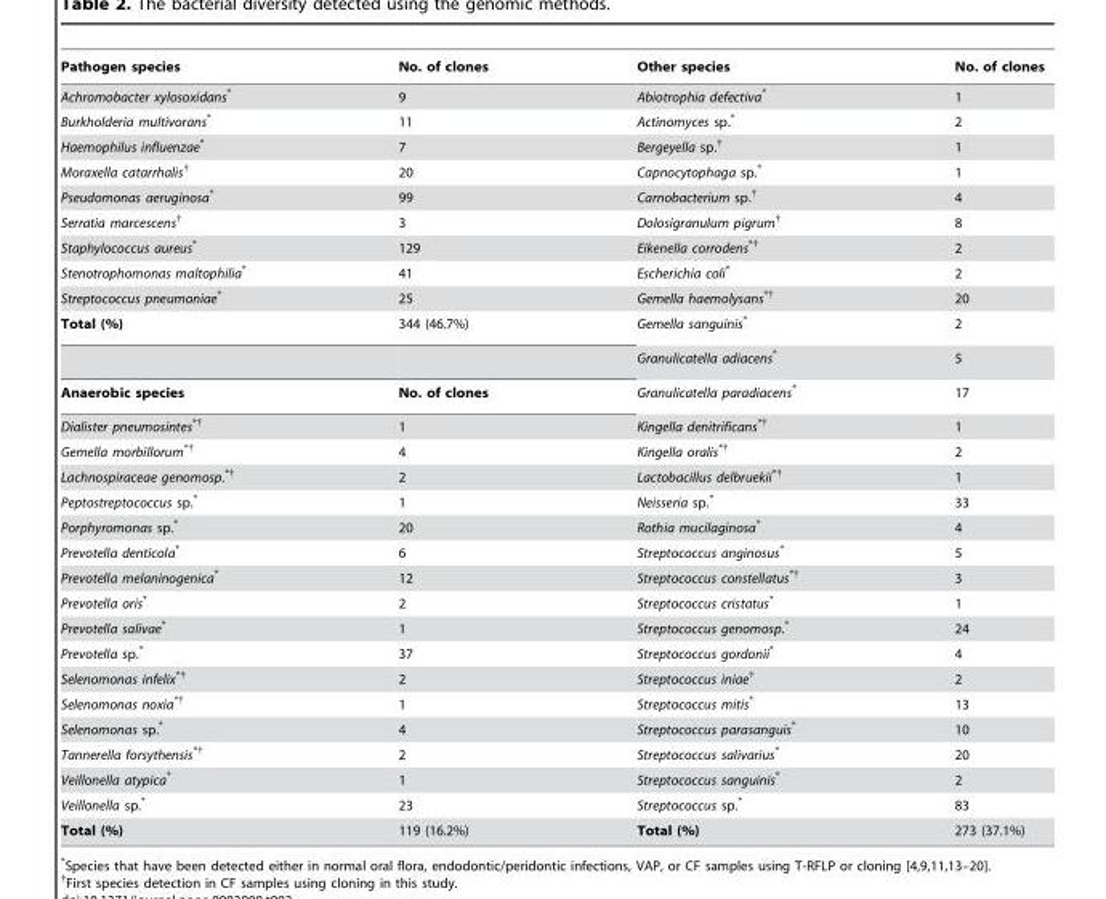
<table><thead><tr><td>Pathogen species</td><td>No. of clones</td><td>Other species</td><td>No. of clones</td></tr></thead><tbody><tr><td>Achromobacter xylosoxidans*</td><td>9</td><td>Abiotrophia defectiva*</td><td>1</td></tr><tr><td>Burkholderia multivorans*</td><td>11</td><td>Actinomyces sp.*</td><td>2</td></tr><tr><td>Haemophilus influenzae*</td><td>7</td><td>Bergeyella sp.†</td><td>1</td></tr><tr><td>Moraxella catarrhalis†</td><td>20</td><td>Capnocytophaga sp.*</td><td>1</td></tr><tr><td>Pseudomonas aeruginosa*</td><td>99</td><td>Carnobacterium sp.†</td><td>4</td></tr><tr><td>Serratia marcescens†</td><td>3</td><td>Dolosigranulum pigrum†</td><td>8</td></tr><tr><td>Staphylococcus aureus*</td><td>129</td><td>Eikenella corrodens*†</td><td>2</td></tr><tr><td>Stenotrophomonas maltophilia*</td><td>41</td><td>Escherichia coli*</td><td>2</td></tr><tr><td>Streptococcus pneumoniae*</td><td>25</td><td>Gemella haemolysans*†</td><td>20</td></tr><tr><td rowspan="2">Total (%)</td><td>344 (46.7%)</td><td>Gemella sanguinis*</td><td>2</td></tr><tr><td></td><td>Granulicatella adiacens*</td><td>5</td></tr><tr><td>Anaerobic species</td><td>No. of clones</td><td>Granulicatella paradiacens*</td><td>17</td></tr><tr><td>Dialister pneumosintes*†</td><td>1</td><td>Kingella denitrificans*†</td><td>1</td></tr><tr><td>Gemella morbillorum*†</td><td>4</td><td>Kingella oralis*†</td><td>2</td></tr><tr><td>Lachnospiraceae genomosp.*†</td><td>2</td><td>Lactobacillus delbruekii*†</td><td>1</td></tr><tr><td>Peptostreptococcus sp.*</td><td>1</td><td>Neisseria sp.*</td><td>33</td></tr><tr><td>Porphyromonas sp.*</td><td>20</td><td>Rothia mucilaginosa*</td><td>4</td></tr><tr><td>Prevotella denticola*</td><td>6</td><td>Streptococcus anginosus*</td><td>5</td></tr><tr><td>Prevotella melaninogenica*</td><td>12</td><td>Streptococcus constellatus*†</td><td>3</td></tr><tr><td>Prevotella oris*</td><td>2</td><td>Streptococcus cristatus*</td><td>1</td></tr><tr><td>Prevotella salivae*</td><td>1</td><td>Streptococcus genomosp.*</td><td>24</td></tr><tr><td>Prevotella sp.*</td><td>37</td><td>Streptococcus gordonii*</td><td>4</td></tr><tr><td>Selenomonas infelix*†</td><td>2</td><td>Streptococcus iniae†</td><td>2</td></tr><tr><td>Selenomonas noxia*†</td><td>1</td><td>Streptococcus mitis*</td><td>13</td></tr><tr><td>Selenomonas sp.*</td><td>4</td><td>Streptococcus parasanguis*</td><td>10</td></tr><tr><td>Tannerella forsythensis*†</td><td>2</td><td>Streptococcus salivarius*</td><td>20</td></tr><tr><td>Veillonella atypica*</td><td>1</td><td>Streptococcus sanguinis*</td><td>2</td></tr><tr><td>Veillonella sp.*</td><td>23</td><td>Streptococcus sp.*</td><td>83</td></tr><tr><td>Total (%)</td><td>119 (16.2%)</td><td>Total (%)</td><td>273 (37.1%)</td></tr></tbody></table>